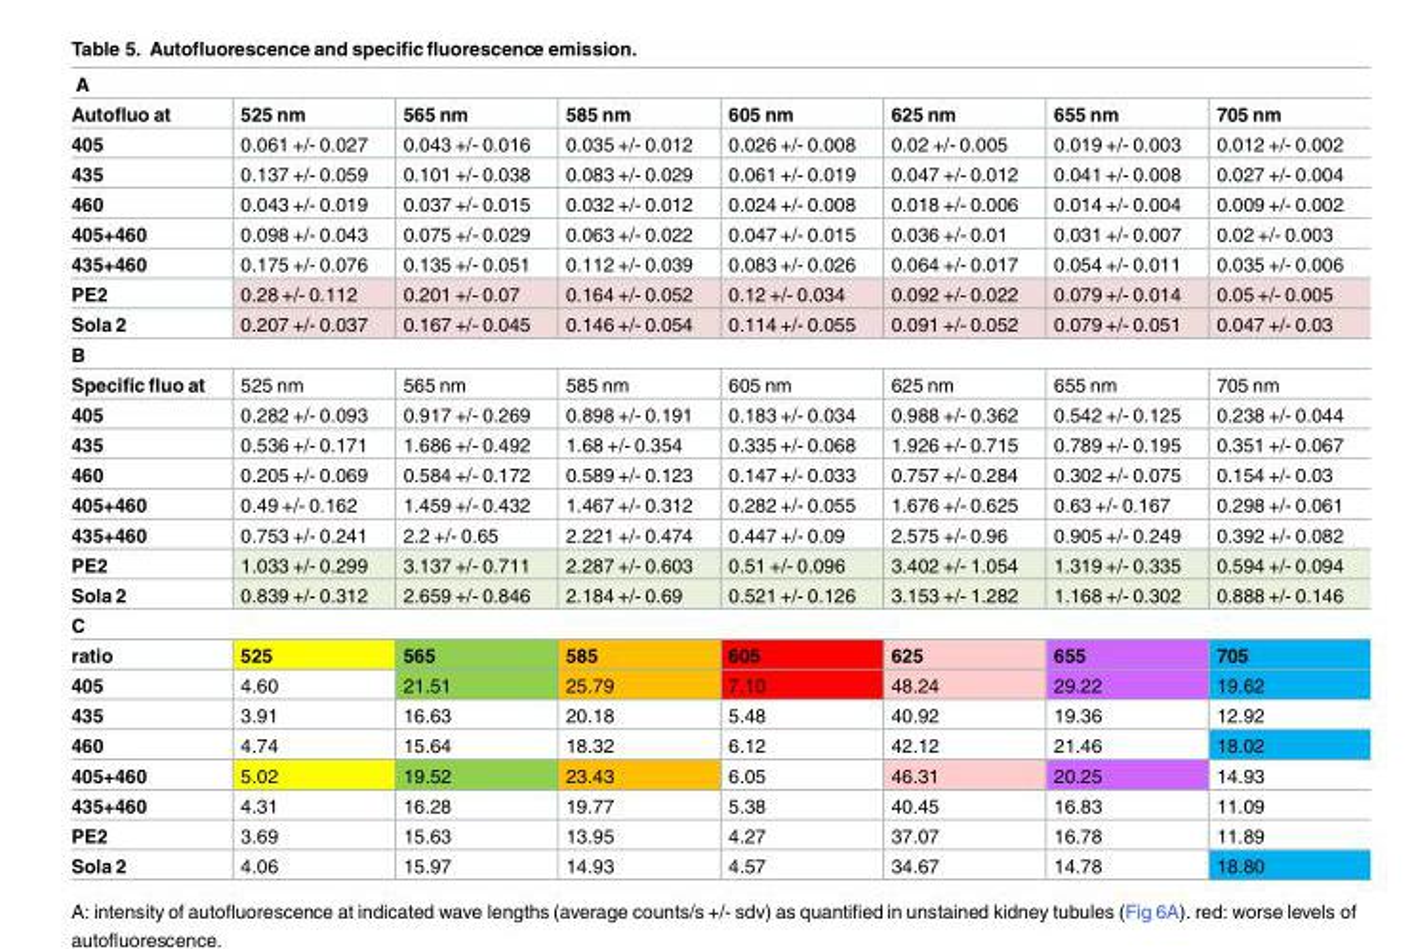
<table><tbody><tr><td colspan="8">A</td></tr><tr><td>Autofluo at</td><td>525 nm</td><td>565 nm</td><td>585 nm</td><td>605 nm</td><td>625 nm</td><td>655 nm</td><td>705 nm</td></tr><tr><td>405</td><td>0.061 +/- 0.027</td><td>0.043 +/- 0.016</td><td>0.035 +/- 0.012</td><td>0.026 +/- 0.008</td><td>0.02 +/- 0.005</td><td>0.019 +/- 0.003</td><td>0.012 +/- 0.002</td></tr><tr><td>435</td><td>0.137 +/- 0.059</td><td>0.101 +/- 0.038</td><td>0.083 +/- 0.029</td><td>0.061 +/- 0.019</td><td>0.047 +/- 0.012</td><td>0.041 +/- 0.008</td><td>0.027 +/- 0.004</td></tr><tr><td>460</td><td>0.043 +/- 0.019</td><td>0.037 +/- 0.015</td><td>0.032 +/- 0.012</td><td>0.024 +/- 0.008</td><td>0.018 +/- 0.006</td><td>0.014 +/- 0.004</td><td>0.009 +/- 0.002</td></tr><tr><td>405+460</td><td>0.098 +/- 0.043</td><td>0.075 +/- 0.029</td><td>0.063 +/- 0.022</td><td>0.047 +/- 0.015</td><td>0.036 +/- 0.01</td><td>0.031 +/- 0.007</td><td>0.02 +/- 0.003</td></tr><tr><td>435+460</td><td>0.175 +/- 0.076</td><td>0.135 +/- 0.051</td><td>0.112 +/- 0.039</td><td>0.083 +/- 0.026</td><td>0.064 +/- 0.017</td><td>0.054 +/- 0.011</td><td>0.035 +/- 0.006</td></tr><tr><td>PE2</td><td>0.28 +/- 0.112</td><td>0.201 +/- 0.07</td><td>0.164 +/- 0.052</td><td>0.12 +/- 0.034</td><td>0.092 +/- 0.022</td><td>0.079 +/- 0.014</td><td>0.05 +/- 0.005</td></tr><tr><td>Sola 2</td><td>0.207 +/- 0.037</td><td>0.167 +/- 0.045</td><td>0.146 +/- 0.054</td><td>0.114 +/- 0.055</td><td>0.091 +/- 0.052</td><td>0.079 +/- 0.051</td><td>0.047 +/- 0.03</td></tr><tr><td colspan="8">B</td></tr><tr><td>Specific fluo at</td><td>525 nm</td><td>565 nm</td><td>585 nm</td><td>605 nm</td><td>625 nm</td><td>655 nm</td><td>705 nm</td></tr><tr><td>405</td><td>0.282 +/- 0.093</td><td>0.917 +/- 0.269</td><td>0.898 +/- 0.191</td><td>0.183 +/- 0.034</td><td>0.988 +/- 0.362</td><td>0.542 +/- 0.125</td><td>0.238 +/- 0.044</td></tr><tr><td>435</td><td>0.536 +/- 0.171</td><td>1.686 +/- 0.492</td><td>1.68 +/- 0.354</td><td>0.335 +/- 0.068</td><td>1.926 +/- 0.715</td><td>0.789 +/- 0.195</td><td>0.351 +/- 0.067</td></tr><tr><td>460</td><td>0.205 +/- 0.069</td><td>0.584 +/- 0.172</td><td>0.589 +/- 0.123</td><td>0.147 +/- 0.033</td><td>0.757 +/- 0.284</td><td>0.302 +/- 0.075</td><td>0.154 +/- 0.03</td></tr><tr><td>405+460</td><td>0.49 +/- 0.162</td><td>1.459 +/- 0.432</td><td>1.467 +/- 0.312</td><td>0.282 +/- 0.055</td><td>1.676 +/- 0.625</td><td>0.63 +/- 0.167</td><td>0.298 +/- 0.061</td></tr><tr><td>435+460</td><td>0.753 +/- 0.241</td><td>2.2 +/- 0.65</td><td>2.221 +/- 0.474</td><td>0.447 +/- 0.09</td><td>2.575 +/- 0.96</td><td>0.905 +/- 0.249</td><td>0.392 +/- 0.082</td></tr><tr><td>PE2</td><td>1.033 +/- 0.299</td><td>3.137 +/- 0.711</td><td>2.287 +/- 0.603</td><td>0.51 +/- 0.096</td><td>3.402 +/- 1.054</td><td>1.319 +/- 0.335</td><td>0.594 +/- 0.094</td></tr><tr><td>Sola 2</td><td>0.839 +/- 0.312</td><td>2.659 +/- 0.846</td><td>2.184 +/- 0.69</td><td>0.521 +/- 0.126</td><td>3.153 +/- 1.282</td><td>1.168 +/- 0.302</td><td>0.888 +/- 0.146</td></tr><tr><td colspan="8">C</td></tr><tr><td>ratio</td><td>525</td><td>565</td><td>585</td><td>605</td><td>625</td><td>655</td><td>705</td></tr><tr><td>405</td><td>4.60</td><td>21.51</td><td>25.79</td><td>7.10</td><td>48.24</td><td>29.22</td><td>19.62</td></tr><tr><td>435</td><td>3.91</td><td>16.63</td><td>20.18</td><td>5.48</td><td>40.92</td><td>19.36</td><td>12.92</td></tr><tr><td>460</td><td>4.74</td><td>15.64</td><td>18.32</td><td>6.12</td><td>42.12</td><td>21.46</td><td>18.02</td></tr><tr><td>405+460</td><td>5.02</td><td>19.52</td><td>23.43</td><td>6.05</td><td>46.31</td><td>20.25</td><td>14.93</td></tr><tr><td>435+460</td><td>4.31</td><td>16.28</td><td>19.77</td><td>5.38</td><td>40.45</td><td>16.83</td><td>11.09</td></tr><tr><td>PE2</td><td>3.69</td><td>15.63</td><td>13.95</td><td>4.27</td><td>37.07</td><td>16.78</td><td>11.89</td></tr><tr><td>Sola 2</td><td>4.06</td><td>15.97</td><td>14.93</td><td>4.57</td><td>34.67</td><td>14.78</td><td>18.80</td></tr></tbody></table>